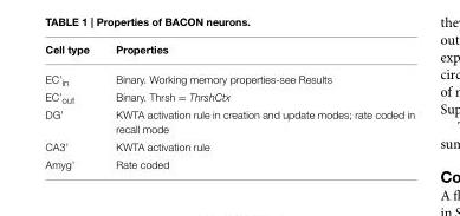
<table><thead><tr><td>Cell type</td><td>Properties</td></tr></thead><tbody><tr><td>EC’<sub>in</sub></td><td>Binary. Working memory properties-see Results</td></tr><tr><td>EC’<sub>out</sub></td><td>Binary. Thrsh = ThrshCtx</td></tr><tr><td>DG’</td><td>KWTA activation rule in creation and update modes; rate coded in recall mode</td></tr><tr><td>CA3’</td><td>KWTA activation rule</td></tr><tr><td>Amyg’</td><td>Rate coded</td></tr></tbody></table>